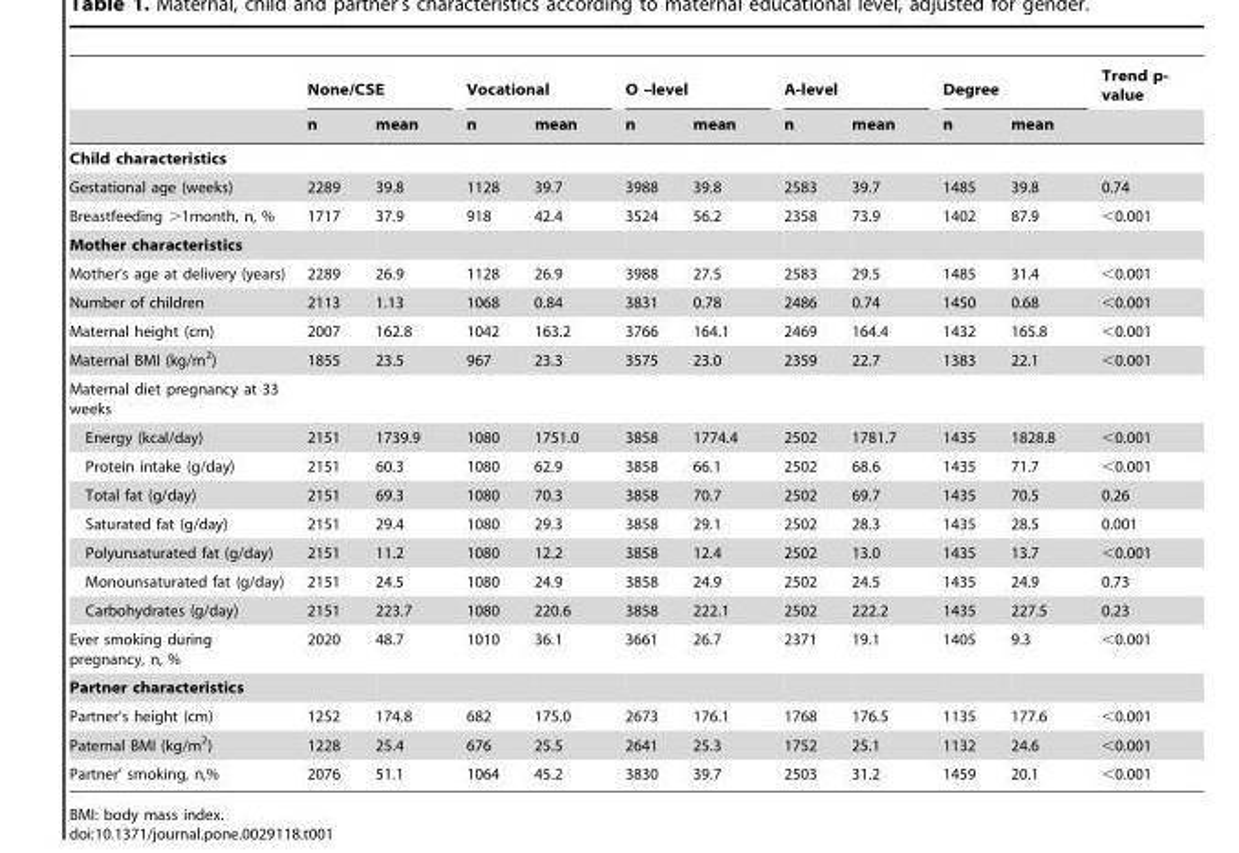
<table><thead><tr><td rowspan="2"></td><td colspan="2">None/CSE</td><td colspan="2">Vocational</td><td colspan="2">O –level</td><td colspan="2">A-level</td><td colspan="2">Degree</td><td rowspan="2">Trend p- value</td></tr><tr><td>n</td><td>mean</td><td>n</td><td>mean</td><td>n</td><td>mean</td><td>n</td><td>mean</td><td>n</td><td>mean</td></tr></thead><tbody><tr><td colspan="12">Child characteristics</td></tr><tr><td>Gestational age (weeks)</td><td>2289</td><td>39.8</td><td>1128</td><td>39.7</td><td>3988</td><td>39.8</td><td>2583</td><td>39.7</td><td>1485</td><td>39.8</td><td>0.74</td></tr><tr><td>Breastfeeding &gt;1month, n, %</td><td>1717</td><td>37.9</td><td>918</td><td>42.4</td><td>3524</td><td>56.2</td><td>2358</td><td>73.9</td><td>1402</td><td>87.9</td><td>&lt;0.001</td></tr><tr><td colspan="12">Mother characteristics</td></tr><tr><td>Mother’s age at delivery (years)</td><td>2289</td><td>26.9</td><td>1128</td><td>26.9</td><td>3988</td><td>27.5</td><td>2583</td><td>29.5</td><td>1485</td><td>31.4</td><td>&lt;0.001</td></tr><tr><td>Number of children</td><td>2113</td><td>1.13</td><td>1068</td><td>0.84</td><td>3831</td><td>0.78</td><td>2486</td><td>0.74</td><td>1450</td><td>0.68</td><td>&lt;0.001</td></tr><tr><td>Maternal height (cm)</td><td>2007</td><td>162.8</td><td>1042</td><td>163.2</td><td>3766</td><td>164.1</td><td>2469</td><td>164.4</td><td>1432</td><td>165.8</td><td>&lt;0.001</td></tr><tr><td>Maternal BMI (kg/m<sup>2</sup>)</td><td>1855</td><td>23.5</td><td>967</td><td>23.3</td><td>3575</td><td>23.0</td><td>2359</td><td>22.7</td><td>1383</td><td>22.1</td><td>&lt;0.001</td></tr><tr><td colspan="12">Maternal diet pregnancy at 33 weeks</td></tr><tr><td>Energy (kcal/day)</td><td>2151</td><td>1739.9</td><td>1080</td><td>1751.0</td><td>3858</td><td>1774.4</td><td>2502</td><td>1781.7</td><td>1435</td><td>1828.8</td><td>&lt;0.001</td></tr><tr><td>Protein intake (g/day)</td><td>2151</td><td>60.3</td><td>1080</td><td>62.9</td><td>3858</td><td>66.1</td><td>2502</td><td>68.6</td><td>1435</td><td>71.7</td><td>&lt;0.001</td></tr><tr><td>Total fat (g/day)</td><td>2151</td><td>69.3</td><td>1080</td><td>70.3</td><td>3858</td><td>70.7</td><td>2502</td><td>69.7</td><td>1435</td><td>70.5</td><td>0.26</td></tr><tr><td>Saturated fat (g/day)</td><td>2151</td><td>29.4</td><td>1080</td><td>29.3</td><td>3858</td><td>29.1</td><td>2502</td><td>28.3</td><td>1435</td><td>28.5</td><td>0.001</td></tr><tr><td>Polyunsaturated fat (g/day)</td><td>2151</td><td>11.2</td><td>1080</td><td>12.2</td><td>3858</td><td>12.4</td><td>2502</td><td>13.0</td><td>1435</td><td>13.7</td><td>&lt;0.001</td></tr><tr><td>Monounsaturated fat (g/day)</td><td>2151</td><td>24.5</td><td>1080</td><td>24.9</td><td>3858</td><td>24.9</td><td>2502</td><td>24.5</td><td>1435</td><td>24.9</td><td>0.73</td></tr><tr><td>Carbohydrates (g/day)</td><td>2151</td><td>223.7</td><td>1080</td><td>220.6</td><td>3858</td><td>222.1</td><td>2502</td><td>222.2</td><td>1435</td><td>227.5</td><td>0.23</td></tr><tr><td>Ever smoking during pregnancy, n, %</td><td>2020</td><td>48.7</td><td>1010</td><td>36.1</td><td>3661</td><td>26.7</td><td>2371</td><td>19.1</td><td>1405</td><td>9.3</td><td>&lt;0.001</td></tr><tr><td colspan="12">Partner characteristics</td></tr><tr><td>Partner’s height (cm)</td><td>1252</td><td>174.8</td><td>682</td><td>175.0</td><td>2673</td><td>176.1</td><td>1768</td><td>176.5</td><td>1135</td><td>177.6</td><td>&lt;0.001</td></tr><tr><td>Paternal BMI (kg/m<sup>2</sup>)</td><td>1228</td><td>25.4</td><td>676</td><td>25.5</td><td>2641</td><td>25.3</td><td>1752</td><td>25.1</td><td>1132</td><td>24.6</td><td>&lt;0.001</td></tr><tr><td>Partner’ smoking, n,%</td><td>2076</td><td>51.1</td><td>1064</td><td>45.2</td><td>3830</td><td>39.7</td><td>2503</td><td>31.2</td><td>1459</td><td>20.1</td><td>&lt;0.001</td></tr></tbody></table>